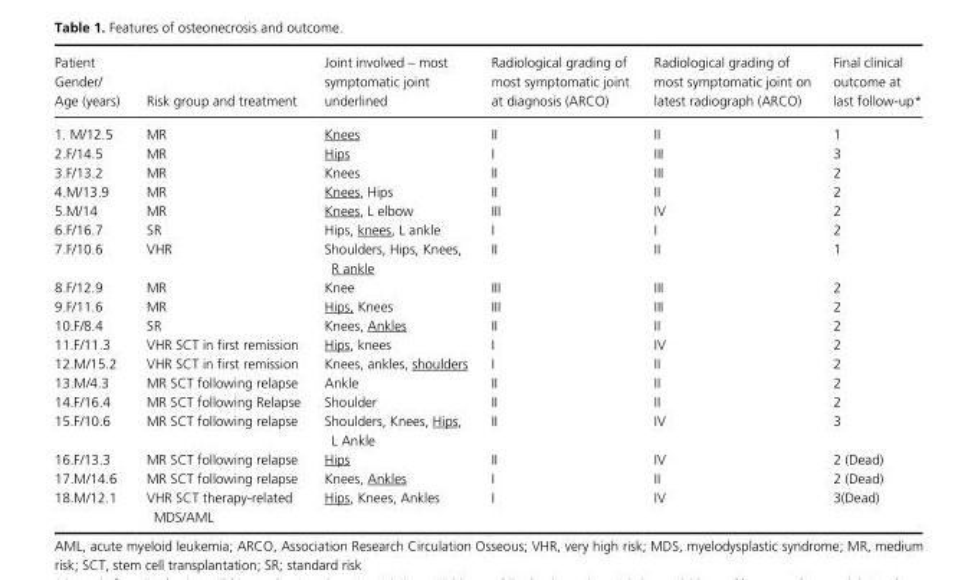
<table><thead><tr><td>Patient Gender/ Age (years)</td><td>Risk group and treatment</td><td>Joint involved – most symptomatic joint underlined</td><td>Radiological grading of most symptomatic joint at diagnosis (ARCO)</td><td>Radiological grading of most symptomatic joint on latest radiograph (ARCO)</td><td>Final clinical outcome at last follow-</td></tr></thead><tbody><tr><td>1. M/12.5</td><td>MR</td><td>Knees</td><td>II</td><td>II</td><td>1</td></tr><tr><td>2.F/14.5</td><td>MR</td><td>Hips</td><td>I</td><td>III</td><td>3</td></tr><tr><td>3.F/13.2</td><td>MR</td><td>Knees</td><td>II</td><td>III</td><td>2</td></tr><tr><td>4.M/13.9</td><td>MR</td><td>Knees, Hips</td><td>II</td><td>II</td><td>2</td></tr><tr><td>5.M/14</td><td>MR</td><td>Knees, L elbow</td><td>III</td><td>IV</td><td>2</td></tr><tr><td>6.F/16.7</td><td>SR</td><td>Hips, knees, L ankle</td><td>I</td><td>I</td><td>2</td></tr><tr><td>7.F/10.6</td><td>VHR</td><td>Shoulders, Hips, Knees, R ankle</td><td>II</td><td>II</td><td>1</td></tr><tr><td>8.F/12.9</td><td>MR</td><td>Knee</td><td>III</td><td>III</td><td>2</td></tr><tr><td>9.F/11.6</td><td>MR</td><td>Hips, Knees</td><td>III</td><td>III</td><td>2</td></tr><tr><td>10.F/8.4</td><td>SR</td><td>Knees, Ankles</td><td>II</td><td>II</td><td>2</td></tr><tr><td>11.F/11.3</td><td>VHR SCT in first remission</td><td>Hips, knees</td><td>I</td><td>IV</td><td>2</td></tr><tr><td>12.M/15.2</td><td>VHR SCT in first remission</td><td>Knees, ankles, shoulders</td><td>I</td><td>II</td><td>2</td></tr><tr><td>13.M/4.3</td><td>MR SCT following relapse</td><td>Ankle</td><td>II</td><td>II</td><td>2</td></tr><tr><td>14.F/16.4</td><td>MR SCT following Relapse</td><td>Shoulder</td><td>II</td><td>II</td><td>2</td></tr><tr><td>15.F/10.6</td><td>MR SCT following relapse</td><td>Shoulders, Knees, Hips, L Ankle</td><td>II</td><td>IV</td><td>3</td></tr><tr><td>16.F/13.3</td><td>MR SCT following relapse</td><td>Hips</td><td>II</td><td>IV</td><td>2 (Dead)</td></tr><tr><td>17.M/14.6</td><td>MR SCT following relapse</td><td>Knees, Ankles</td><td>I</td><td>II</td><td>2 (Dead)</td></tr><tr><td>18.M/12.1</td><td>VHR SCT therapy- related MDS/AML</td><td>Hips, Knees, Ankles</td><td>I</td><td>IV</td><td>3(Dead)</td></tr></tbody></table>